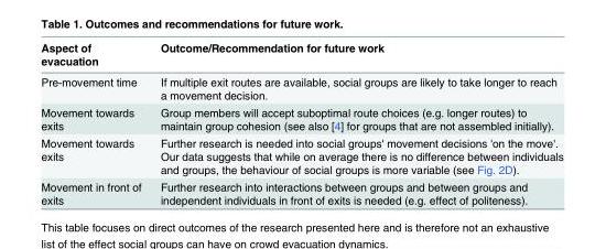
<table><thead><tr><td>Aspect of evacuation</td><td>Outcome/Recommendation for future work</td></tr></thead><tbody><tr><td>Pre-movement time</td><td>If multiple exit routes are available, social groups are likely to take longer to reach a movement decision.</td></tr><tr><td>Movement towards exits</td><td>Group members will accept suboptimal route choices (e.g. longer routes) to maintain group cohesion (see also [4] for groups that are not assembled initially).</td></tr><tr><td>Movement towards exits</td><td>Further research is needed into social groups&#x27; movement decisions &#x27;on the move&#x27;. Our data suggests that while on average there is no difference between individuals and groups, the behaviour of social groups is more variable (see Fig. 2D).</td></tr><tr><td>Movement in front of exits</td><td>Further research into interactions between groups and between groups and independent individuals in front of exits is needed (e.g. effect of politeness).</td></tr></tbody></table>